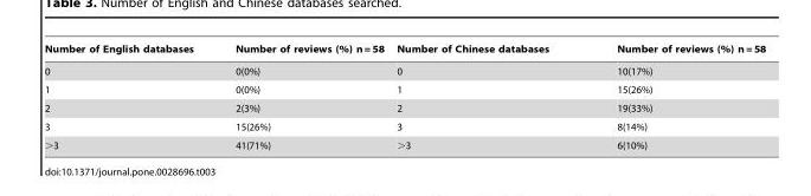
<table><thead><tr><td>Number of English databases</td><td>Number of reviews (%) n = 58</td><td>Number of Chinese databases</td><td>Number of reviews (%) n = 58</td></tr></thead><tbody><tr><td>0</td><td>0(0%)</td><td>0</td><td>10(17%)</td></tr><tr><td>1</td><td>0(0%)</td><td>1</td><td>15(26%)</td></tr><tr><td>2</td><td>2(3%)</td><td>2</td><td>19(33%)</td></tr><tr><td>3</td><td>15(26%)</td><td>3</td><td>8(14%)</td></tr><tr><td>&gt;3</td><td>41(71%)</td><td>&gt;3</td><td>6(10%)</td></tr></tbody></table>